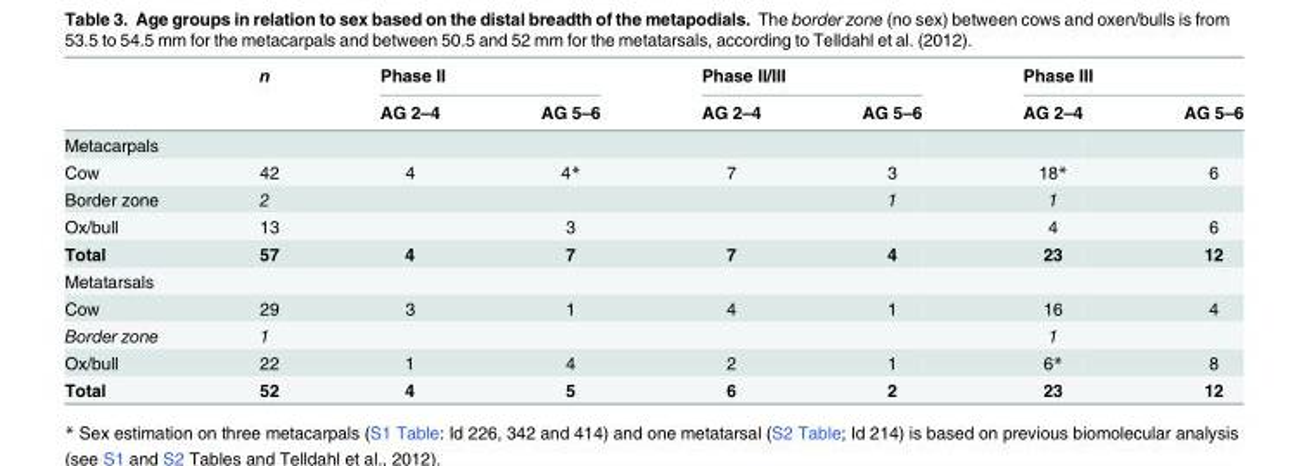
<table><thead><tr><td rowspan="2"></td><td rowspan="2">n</td><td colspan="2">Phase II</td><td colspan="2">Phase II/III</td><td colspan="2">Phase III</td></tr><tr><td>AG 2–4</td><td>AG 5–6</td><td>AG 2–4</td><td>AG 5–6</td><td>AG 2–4</td><td>AG 5–6</td></tr></thead><tbody><tr><td colspan="8">Metacarpals</td></tr><tr><td>Cow</td><td>42</td><td>4</td><td>4*</td><td>7</td><td>3</td><td>18*</td><td>6</td></tr><tr><td>Border zone</td><td>2</td><td></td><td></td><td></td><td>1</td><td>1</td><td></td></tr><tr><td>Ox/bull</td><td>13</td><td></td><td>3</td><td></td><td></td><td>4</td><td>6</td></tr><tr><td>Total</td><td>57</td><td>4</td><td>7</td><td>7</td><td>4</td><td>23</td><td>12</td></tr><tr><td colspan="8">Metatarsals</td></tr><tr><td>Cow</td><td>29</td><td>3</td><td>1</td><td>4</td><td>1</td><td>16</td><td>4</td></tr><tr><td>Border zone</td><td>1</td><td></td><td></td><td></td><td></td><td>1</td><td></td></tr><tr><td>Ox/bull</td><td>22</td><td>1</td><td>4</td><td>2</td><td>1</td><td>6*</td><td>8</td></tr><tr><td>Total</td><td>52</td><td>4</td><td>5</td><td>6</td><td>2</td><td>23</td><td>12</td></tr></tbody></table>